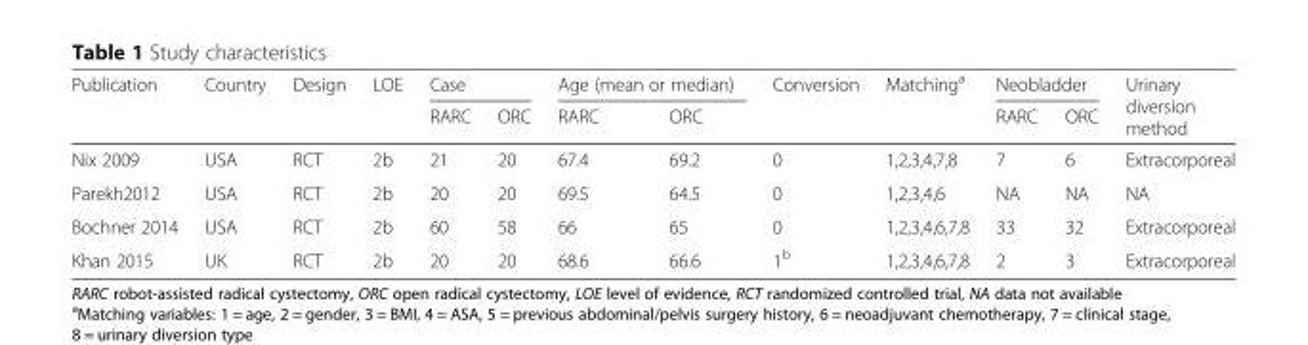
<table><thead><tr><td rowspan="2">Publication</td><td rowspan="2">Country</td><td rowspan="2">Design</td><td rowspan="2">LOE</td><td colspan="2">Case</td><td colspan="2">Age (mean or median)</td><td rowspan="2">Conversion</td><td rowspan="2">Matching<sup>a</sup></td><td colspan="2">Neobladder</td><td rowspan="2">Urinary diversion method</td></tr><tr><td>RARC</td><td>ORC</td><td>RARC</td><td>ORC</td><td>RARC</td><td>ORC</td></tr></thead><tbody><tr><td>Nix 2009</td><td>USA</td><td>RCT</td><td>2b</td><td>21</td><td>20</td><td>67.4</td><td>69.2</td><td>0</td><td>1,2,3,4,7,8</td><td>7</td><td>6</td><td>Extracorporeal</td></tr><tr><td>Parekh2012</td><td>USA</td><td>RCT</td><td>2b</td><td>20</td><td>20</td><td>69.5</td><td>64.5</td><td>0</td><td>1,2,3,4,6</td><td>NA</td><td>NA</td><td>NA</td></tr><tr><td>Bochner 2014</td><td>USA</td><td>RCT</td><td>2b</td><td>60</td><td>58</td><td>66</td><td>65</td><td>0</td><td>1,2,3,4,6,7,8</td><td>33</td><td>32</td><td>Extracorporeal</td></tr><tr><td>Khan 2015</td><td>UK</td><td>RCT</td><td>2b</td><td>20</td><td>20</td><td>68.6</td><td>66.6</td><td>1<sup>b</sup></td><td>1,2,3,4,6,7,8</td><td>2</td><td>3</td><td>Extracorporeal</td></tr></tbody></table>